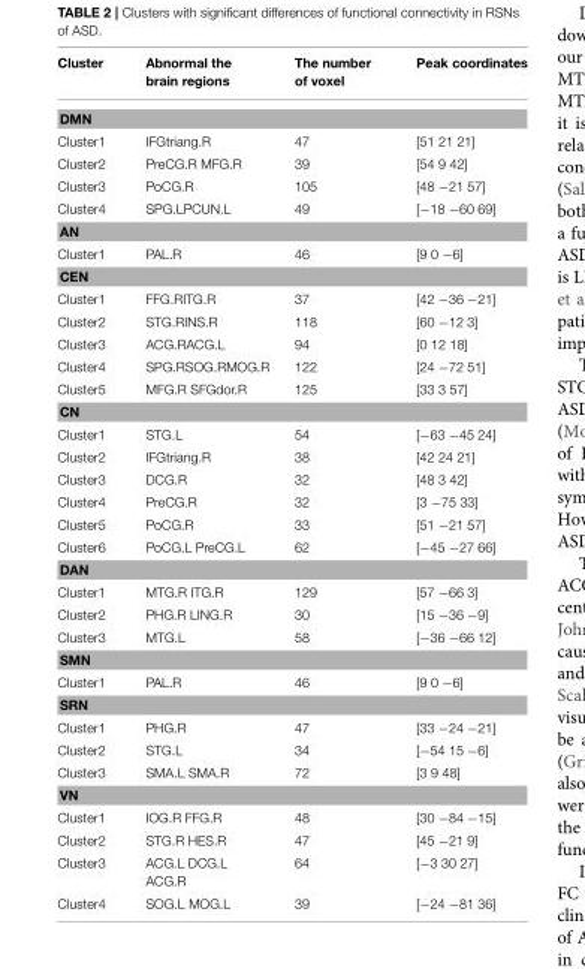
<table><thead><tr><td>Cluster</td><td>Abnormal the brain regions</td><td>The number of voxel</td><td>Peak coordinates</td></tr></thead><tbody><tr><td colspan="4">DMN</td></tr><tr><td>Cluster1</td><td>IFGtriang.R</td><td>47</td><td>[51 21 21]</td></tr><tr><td>Cluster2</td><td>PreCG.R MFG.R</td><td>39</td><td>[54 9 42]</td></tr><tr><td>Cluster3</td><td>PoCG.R</td><td>105</td><td>[48 −21 57]</td></tr><tr><td>Cluster4</td><td>SPG.LPCUN.L</td><td>49</td><td>[−18 −60 69]</td></tr><tr><td colspan="4">AN</td></tr><tr><td>Cluster1</td><td>PAL.R</td><td>46</td><td>[9 0 −6]</td></tr><tr><td colspan="4">CEN</td></tr><tr><td>Cluster1</td><td>FFG.RITG.R</td><td>37</td><td>[42 −36 −21]</td></tr><tr><td>Cluster2</td><td>STG.RINS.R</td><td>118</td><td>[60 −12 3]</td></tr><tr><td>Cluster3</td><td>ACG.RACG.L</td><td>94</td><td>[0 12 18]</td></tr><tr><td>Cluster4</td><td>SPG.RSOG.RMOG.R</td><td>122</td><td>[24 −72 51]</td></tr><tr><td>Cluster5</td><td>MFG.R SFGdor.R</td><td>125</td><td>[33 3 57]</td></tr><tr><td colspan="4">CN</td></tr><tr><td>Cluster1</td><td>STG.L</td><td>54</td><td>[−63 −45 24]</td></tr><tr><td>Cluster2</td><td>IFGtriang.R</td><td>38</td><td>[42 24 21]</td></tr><tr><td>Cluster3</td><td>DCG.R</td><td>32</td><td>[48 3 42]</td></tr><tr><td>Cluster4</td><td>PreCG.R</td><td>32</td><td>[3 −75 33]</td></tr><tr><td>Cluster5</td><td>PoCG.R</td><td>33</td><td>[51 −21 57]</td></tr><tr><td>Cluster6</td><td>PoCG.L PreCG.L</td><td>62</td><td>[−45 −27 66]</td></tr><tr><td colspan="4">DAN</td></tr><tr><td>Cluster1</td><td>MTG.R ITG.R</td><td>129</td><td>[57 −66 3]</td></tr><tr><td>Cluster2</td><td>PHG.R LING.R</td><td>30</td><td>[15 −36 −9]</td></tr><tr><td>Cluster3</td><td>MTG.L</td><td>58</td><td>[−36 −66 12]</td></tr><tr><td colspan="4">SMN</td></tr><tr><td>Cluster1</td><td>PAL.R</td><td>46</td><td>[9 0 −6]</td></tr><tr><td colspan="4">SRN</td></tr><tr><td>Cluster1</td><td>PHG.R</td><td>47</td><td>[33 −24 −21]</td></tr><tr><td>Cluster2</td><td>STG.L</td><td>34</td><td>[−54 15 −6]</td></tr><tr><td>Cluster3</td><td>SMA.L SMA.R</td><td>72</td><td>[3 9 48]</td></tr><tr><td colspan="4">VN</td></tr><tr><td>Cluster1</td><td>IOG.R FFG.R</td><td>48</td><td>[30 −84 −15]</td></tr><tr><td>Cluster2</td><td>STG.R HES.R</td><td>47</td><td>[45 −21 9]</td></tr><tr><td>Cluster3</td><td>ACG.L DCG.L ACG.R</td><td>64</td><td>[−3 30 27]</td></tr><tr><td>Cluster4</td><td>SOG.L MOG.L</td><td>39</td><td>[−24 −81 36]</td></tr></tbody></table>